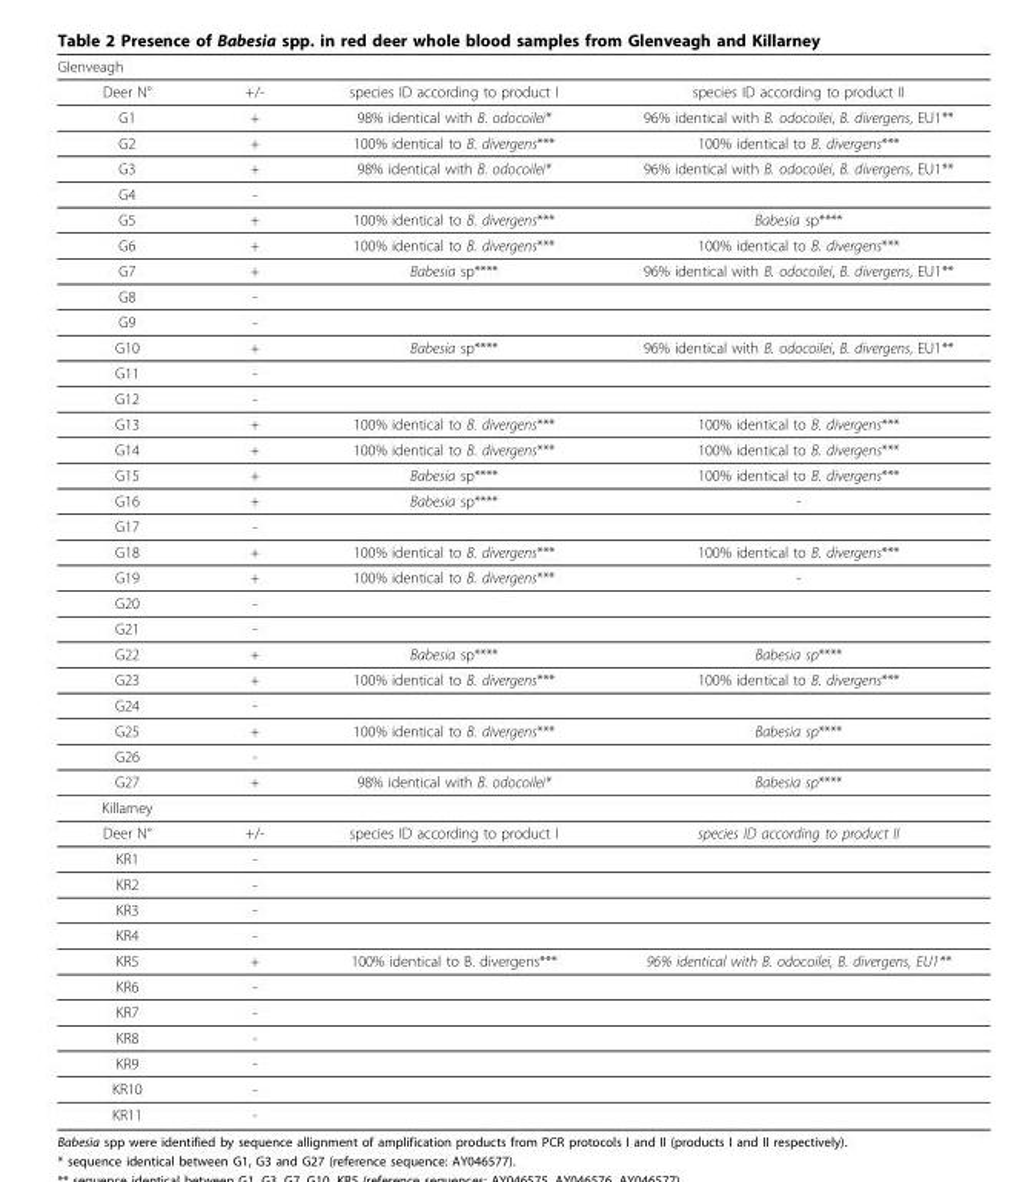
<table><thead><tr><td>Glenveagh</td><td></td><td></td><td></td></tr></thead><tbody><tr><td>Deer N°</td><td>+/-</td><td>species ID according to product I</td><td>species ID according to product II</td></tr><tr><td>G1</td><td>+</td><td>98% identical with B. odocoilei*</td><td>96% identical with B. odocoilei, B. divergens, EU1**</td></tr><tr><td>G2</td><td>+</td><td>100% identical to B. divergens***</td><td>100% identical to B. divergens***</td></tr><tr><td>G3</td><td>+</td><td>98% identical with B. odocoilei*</td><td>96% identical with B. odocoilei, B. divergens, EU1**</td></tr><tr><td>G4</td><td>-</td><td></td><td></td></tr><tr><td>G5</td><td>+</td><td>100% identical to B. divergens***</td><td>Babesia sp****</td></tr><tr><td>G6</td><td>+</td><td>100% identical to B. divergens***</td><td>100% identical to B. divergens***</td></tr><tr><td>G7</td><td>+</td><td>Babesia sp****</td><td>96% identical with B. odocoilei, B. divergens, EU1**</td></tr><tr><td>G8</td><td>-</td><td></td><td></td></tr><tr><td>G9</td><td>-</td><td></td><td></td></tr><tr><td>G10</td><td>+</td><td>Babesia sp****</td><td>96% identical with B. odocoilei, B. divergens, EU1**</td></tr><tr><td>G11</td><td>-</td><td></td><td></td></tr><tr><td>G12</td><td>-</td><td></td><td></td></tr><tr><td>G13</td><td>+</td><td>100% identical to B. divergens***</td><td>100% identical to B. divergens***</td></tr><tr><td>G14</td><td>+</td><td>100% identical to B. divergens***</td><td>100% identical to B. divergens***</td></tr><tr><td>G15</td><td>+</td><td>Babesia sp****</td><td>100% identical to B. divergens***</td></tr><tr><td>G16</td><td>+</td><td>Babesia sp****</td><td>-</td></tr><tr><td>G17</td><td>-</td><td></td><td></td></tr><tr><td>G18</td><td>+</td><td>100% identical to B. divergens***</td><td>100% identical to B. divergens***</td></tr><tr><td>G19</td><td>+</td><td>100% identical to B. divergens***</td><td>-</td></tr><tr><td>G20</td><td>-</td><td></td><td></td></tr><tr><td>G21</td><td>-</td><td></td><td></td></tr><tr><td>G22</td><td>+</td><td>Babesia sp****</td><td>Babesia sp****</td></tr><tr><td>G23</td><td>+</td><td>100% identical to B. divergens***</td><td>100% identical to B. divergens***</td></tr><tr><td>G24</td><td>-</td><td></td><td></td></tr><tr><td>G25</td><td>+</td><td>100% identical to B. divergens***</td><td>Babesia sp****</td></tr><tr><td>G26</td><td>-</td><td></td><td></td></tr><tr><td>G27</td><td>+</td><td>98% identical with B. odocoilei*</td><td>Babesia sp****</td></tr><tr><td colspan="4">Killarney</td></tr><tr><td>Deer N°</td><td>+/-</td><td>species ID according to product I</td><td>species ID according to product II</td></tr><tr><td>KR1</td><td>-</td><td></td><td></td></tr><tr><td>KR2</td><td>-</td><td></td><td></td></tr><tr><td>KR3</td><td>-</td><td></td><td></td></tr><tr><td>KR4</td><td>-</td><td></td><td></td></tr><tr><td>KR5</td><td>+</td><td>100% identical to B. divergens***</td><td>96% identical with B. odocoilei, B. divergens, EU1**</td></tr><tr><td>KR6</td><td>-</td><td></td><td></td></tr><tr><td>KR7</td><td>-</td><td></td><td></td></tr><tr><td>KR8</td><td>-</td><td></td><td></td></tr><tr><td>KR9</td><td>-</td><td></td><td></td></tr><tr><td>KR10</td><td>-</td><td></td><td></td></tr><tr><td>KR11</td><td>-</td><td></td><td></td></tr></tbody></table>